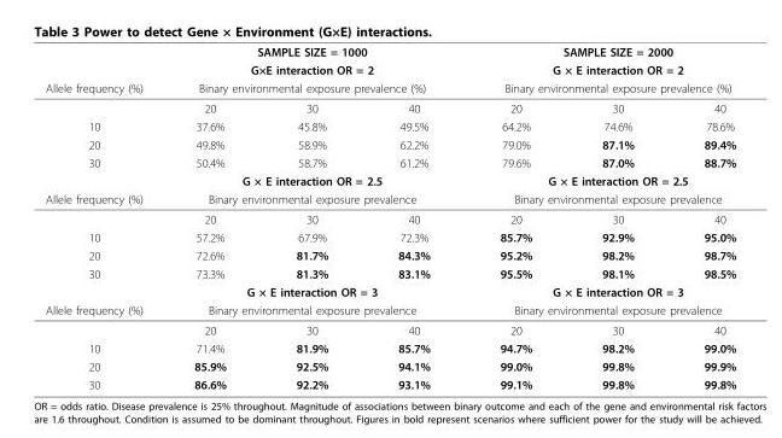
<table><thead><tr><td rowspan="4">Allele frequency (%)</td><td rowspan="3" colspan="3">SAMPLE SIZE = 1000 G×E interaction OR = 2 Binary environmental exposure prevalence (%)</td><td rowspan="3" colspan="3">SAMPLE SIZE = 2000 G × E interaction OR = 2 Binary environmental exposure prevalence (%)</td></tr><tr></tr><tr></tr><tr><td>20</td><td>30</td><td>40</td><td>20</td><td>30</td><td>40</td></tr></thead><tbody><tr><td>10</td><td>37.6%</td><td>45.8%</td><td>49.5%</td><td>64.2%</td><td>74.6%</td><td>78.6%</td></tr><tr><td>20</td><td>49.8%</td><td>58.9%</td><td>62.2%</td><td>79.0%</td><td>87.1%</td><td>89.4%</td></tr><tr><td rowspan="2">30</td><td>50.4%</td><td>58.7%</td><td>61.2%</td><td>79.6%</td><td>87.0%</td><td>88.7%</td></tr><tr><td colspan="3">G × E interaction OR = 2.5</td><td colspan="3">G × E interaction OR = 2.5</td></tr><tr><td rowspan="2">Allele frequency (%)</td><td colspan="3">Binary environmental exposure prevalence</td><td colspan="3">Binary environmental exposure prevalence</td></tr><tr><td>20</td><td>30</td><td>40</td><td>20</td><td>30</td><td>40</td></tr><tr><td>10</td><td>57.2%</td><td>67.9%</td><td>72.3%</td><td>85.7%</td><td>92.9%</td><td>95.0%</td></tr><tr><td>20</td><td>72.6%</td><td>81.7%</td><td>84.3%</td><td>95.2%</td><td>98.2%</td><td>98.7%</td></tr><tr><td rowspan="2">30</td><td>73.3%</td><td>81.3%</td><td>83.1%</td><td>95.5%</td><td>98.1%</td><td>98.5%</td></tr><tr><td colspan="3">G × E interaction OR = 3</td><td colspan="3">G × E interaction OR = 3</td></tr><tr><td rowspan="2">Allele frequency (%)</td><td colspan="3">Binary environmental exposure prevalence</td><td colspan="3">Binary environmental exposure prevalence</td></tr><tr><td>20</td><td>30</td><td>40</td><td>20</td><td>30</td><td>40</td></tr><tr><td>10</td><td>71.4%</td><td>81.9%</td><td>85.7%</td><td>94.7%</td><td>98.2%</td><td>99.0%</td></tr><tr><td>20</td><td>85.9%</td><td>92.5%</td><td>94.1%</td><td>99.0%</td><td>99.8%</td><td>99.9%</td></tr><tr><td>30</td><td>86.6%</td><td>92.2%</td><td>93.1%</td><td>99.1%</td><td>99.8%</td><td>99.8%</td></tr></tbody></table>